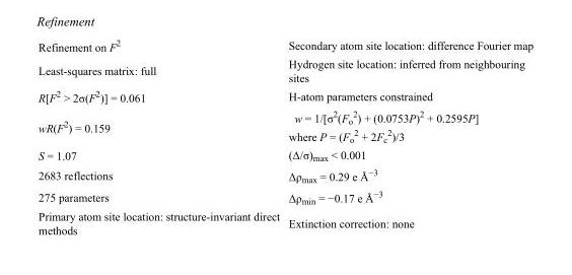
<table><tbody><tr><td>Refinement on F<sup>2</sup></td><td>Secondary atom site location: difference Fourier map</td></tr><tr><td>Least-squares matrix: full</td><td>Hydrogen site location: inferred from neighbouring sites</td></tr><tr><td>R[F<sup>2</sup> &gt; 2σ(F<sup>2</sup>)] = 0.061</td><td>H-atom parameters constrained</td></tr><tr><td>wR(F<sup>2</sup>) = 0.159</td><td>w = 1/[σ<sup>2</sup>(F<sub>o</sub> <sup>2</sup>) + (0.0753P)<sup>2</sup> + 0.2595P] where P = (F<sub>o</sub> <sup>2</sup> + 2F<sub>c</sub> <sup>2</sup>)/3</td></tr><tr><td>S = 1.07</td><td>(Δ/σ)<sub>max</sub> &lt; 0.001</td></tr><tr><td>2683 reflections</td><td>Δρ<sub>max</sub> = 0.29 e Å<sup>−3</sup></td></tr><tr><td>275 parameters</td><td>Δρ<sub>min</sub> = −0.17 e Å<sup>−3</sup></td></tr><tr><td>Primary atom site location: structure-invariant direct methods</td><td>Extinction correction: none</td></tr></tbody></table>